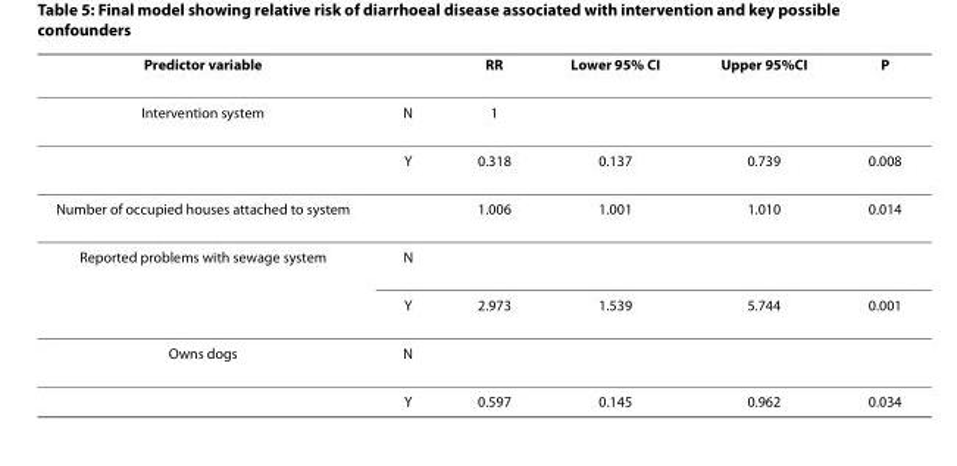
<table><thead><tr><td>Predictor variable</td><td></td><td>RR</td><td>Lower 95% CI</td><td>Upper 95%CI</td><td>P</td></tr></thead><tbody><tr><td rowspan="2">Intervention system</td><td>N</td><td>1</td><td></td><td></td><td></td></tr><tr><td>Y</td><td>0.318</td><td>0.137</td><td>0.739</td><td>0.008</td></tr><tr><td>Number of occupied houses attached to system</td><td></td><td>1.006</td><td>1.001</td><td>1.010</td><td>0.014</td></tr><tr><td rowspan="2">Reported problems with sewage system</td><td>N</td><td></td><td></td><td></td><td></td></tr><tr><td>Y</td><td>2.973</td><td>1.539</td><td>5.744</td><td>0.001</td></tr><tr><td rowspan="2">Owns dogs</td><td>N</td><td></td><td></td><td></td><td></td></tr><tr><td>Y</td><td>0.597</td><td>0.145</td><td>0.962</td><td>0.034</td></tr></tbody></table>